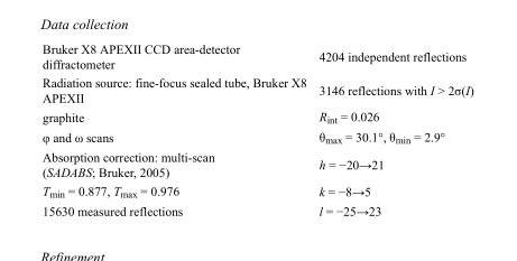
<table><tbody><tr><td>Bruker X8 APEXII CCD area-detector diffractometer</td><td>4204 independent reflections</td></tr><tr><td>Radiation source: fine-focus sealed tube, Bruker X8 APEXII</td><td>3146 reflections with I &gt; 2σ(I)</td></tr><tr><td>graphite</td><td>R<sub>int</sub> = 0.026</td></tr><tr><td>φ and ω scans</td><td>θ<sub>max</sub> = 30.1°, θ<sub>min</sub> = 2.9°</td></tr><tr><td>Absorption correction: multi-scan (SADABS; Bruker, 2005)</td><td>h = −20→21</td></tr><tr><td>T<sub>min</sub> = 0.877, T<sub>max</sub> = 0.976</td><td>k = −8→5</td></tr><tr><td>15630 measured reflections</td><td>l = −25→23</td></tr></tbody></table>